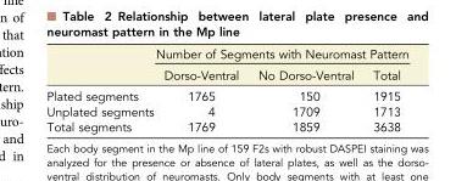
<table><thead><tr><td rowspan="2"></td><td colspan="3">Number of Segments with Neuromast Pattern</td></tr><tr><td>Dorso-Ventral</td><td>No Dorso-Ventral</td><td>Total</td></tr></thead><tbody><tr><td>Plated segments</td><td>1765</td><td>150</td><td>1915</td></tr><tr><td>Unplated segments</td><td>4</td><td>1709</td><td>1713</td></tr><tr><td>Total segments</td><td>1769</td><td>1859</td><td>3638</td></tr></tbody></table>